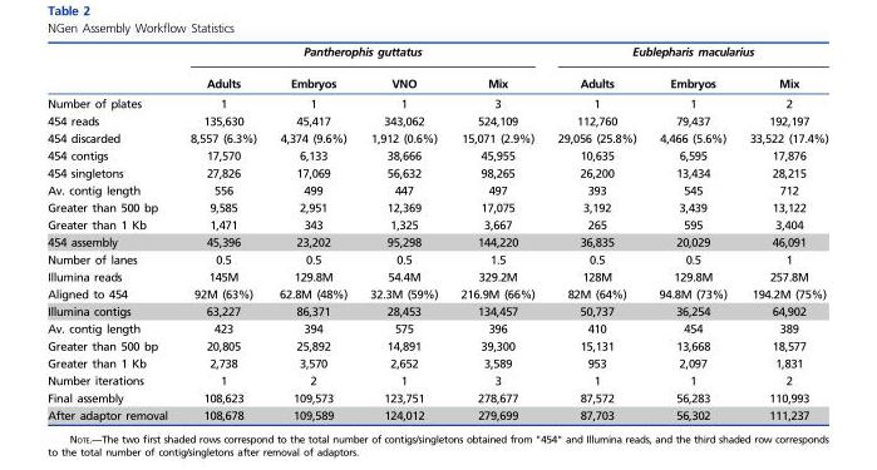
<table><thead><tr><td rowspan="2"></td><td colspan="4">Pantherophis guttatus</td><td colspan="3">Eublepharis macularius</td></tr><tr><td>Adults</td><td>Embryos</td><td>VNO</td><td>Mix</td><td>Adults</td><td>Embryos</td><td>Mix</td></tr></thead><tbody><tr><td>Number of plates</td><td>1</td><td>1</td><td>1</td><td>3</td><td>1</td><td>1</td><td>2</td></tr><tr><td>454 reads</td><td>135,630</td><td>45,417</td><td>343,062</td><td>524,109</td><td>112,760</td><td>79,437</td><td>192,197</td></tr><tr><td>454 discarded</td><td>8,557 (6.3%)</td><td>4,374 (9.6%)</td><td>1,912 (0.6%)</td><td>15,071 (2.9%)</td><td>29,056 (25.8%)</td><td>4,466 (5.6%)</td><td>33,522 (17.4%)</td></tr><tr><td>454 contigs</td><td>17,570</td><td>6,133</td><td>38,666</td><td>45,955</td><td>10,635</td><td>6,595</td><td>17,876</td></tr><tr><td>454 singletons</td><td>27,826</td><td>17,069</td><td>56,632</td><td>98,265</td><td>26,200</td><td>13,434</td><td>28,215</td></tr><tr><td>Av. contig length</td><td>556</td><td>499</td><td>447</td><td>497</td><td>393</td><td>545</td><td>712</td></tr><tr><td>Greater than 500 bp</td><td>9,585</td><td>2,951</td><td>12,369</td><td>17,075</td><td>3,192</td><td>3,439</td><td>13,122</td></tr><tr><td>Greater than 1 Kb</td><td>1,471</td><td>343</td><td>1,325</td><td>3,667</td><td>265</td><td>595</td><td>3,404</td></tr><tr><td>454 assembly</td><td>45,396</td><td>23,202</td><td>95,298</td><td>144,220</td><td>36,835</td><td>20,029</td><td>46,091</td></tr><tr><td>Number of lanes</td><td>0.5</td><td>0.5</td><td>0.5</td><td>1.5</td><td>0.5</td><td>0.5</td><td>1</td></tr><tr><td>Illumina reads</td><td>145M</td><td>129.8M</td><td>54.4M</td><td>329.2M</td><td>128M</td><td>129.8M</td><td>257.8M</td></tr><tr><td>Aligned to 454</td><td>92M (63%)</td><td>62.8M (48%)</td><td>32.3M (59%)</td><td>216.9M (66%)</td><td>82M (64%)</td><td>94.8M (73%)</td><td>194.2M (75%)</td></tr><tr><td>Illumina contigs</td><td>63,227</td><td>86,371</td><td>28,453</td><td>134,457</td><td>50,737</td><td>36,254</td><td>64,902</td></tr><tr><td>Av. contig length</td><td>423</td><td>394</td><td>575</td><td>396</td><td>410</td><td>454</td><td>389</td></tr><tr><td>Greater than 500 bp</td><td>20,805</td><td>25,892</td><td>14,891</td><td>39,300</td><td>15,131</td><td>13,668</td><td>18,577</td></tr><tr><td>Greater than 1 Kb</td><td>2,738</td><td>3,570</td><td>2,652</td><td>3,589</td><td>953</td><td>2,097</td><td>1,831</td></tr><tr><td>Number iterations</td><td>1</td><td>2</td><td>1</td><td>3</td><td>1</td><td>1</td><td>2</td></tr><tr><td>Final assembly</td><td>108,623</td><td>109,573</td><td>123,751</td><td>278,677</td><td>87,572</td><td>56,283</td><td>110,993</td></tr><tr><td>After adaptor removal</td><td>108,678</td><td>109,589</td><td>124,012</td><td>279,699</td><td>87,703</td><td>56,302</td><td>111,237</td></tr></tbody></table>